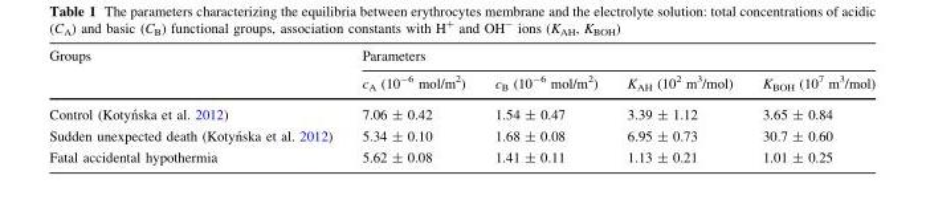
<table><thead><tr><td rowspan="2">Groups</td><td colspan="4">Parameters</td></tr><tr><td>c<sub>A</sub> (10<sup>-6</sup> mol/m<sup>2</sup>)</td><td>c<sub>B</sub> (10<sup>-6</sup> mol/m<sup>2</sup>)</td><td>K<sub>AH</sub> (10<sup>2</sup> m<sup>3</sup>/mol)</td><td>K<sub>BOH</sub> (10<sup>7</sup> m<sup>3</sup>/mol)</td></tr></thead><tbody><tr><td>Control (Kotyn´ska et al. 2012)</td><td>7.06 ± 0.42</td><td>1.54 ± 0.47</td><td>3.39 ± 1.12</td><td>3.65 ± 0.84</td></tr><tr><td>Sudden unexpected death (Kotyn´ska et al. 2012)</td><td>5.34 ± 0.10</td><td>1.68 ± 0.08</td><td>6.95 ± 0.73</td><td>30.7 ± 0.60</td></tr><tr><td>Fatal accidental hypothermia</td><td>5.62 ± 0.08</td><td>1.41 ± 0.11</td><td>1.13 ± 0.21</td><td>1.01 ± 0.25</td></tr></tbody></table>